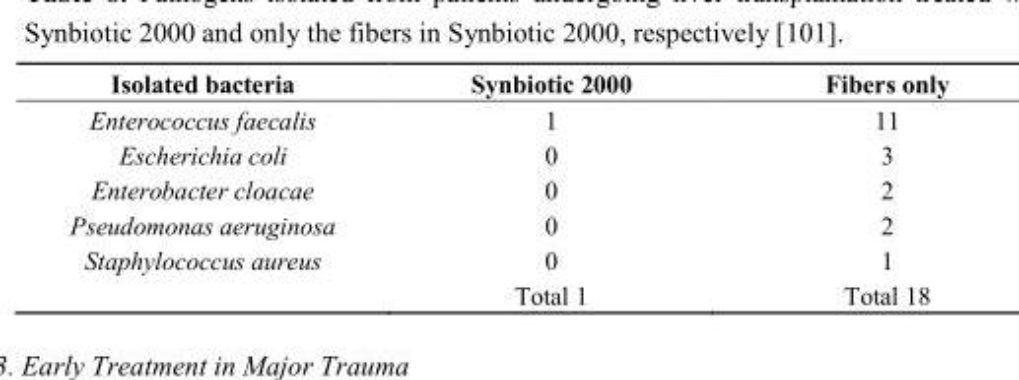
<table><thead><tr><td>Isolated bacteria</td><td>Synbiotic 2000</td><td>Fibers only</td></tr></thead><tbody><tr><td>Enterococcus faecalis</td><td>1</td><td>11</td></tr><tr><td>Escherichia coli</td><td>0</td><td>3</td></tr><tr><td>Enterobacter cloacae</td><td>0</td><td>2</td></tr><tr><td>Pseudomonas aeruginosa</td><td>0</td><td>2</td></tr><tr><td rowspan="2">Staphylococcus aureus</td><td>0</td><td>1</td></tr><tr><td>Total 1</td><td>Total 18</td></tr></tbody></table>